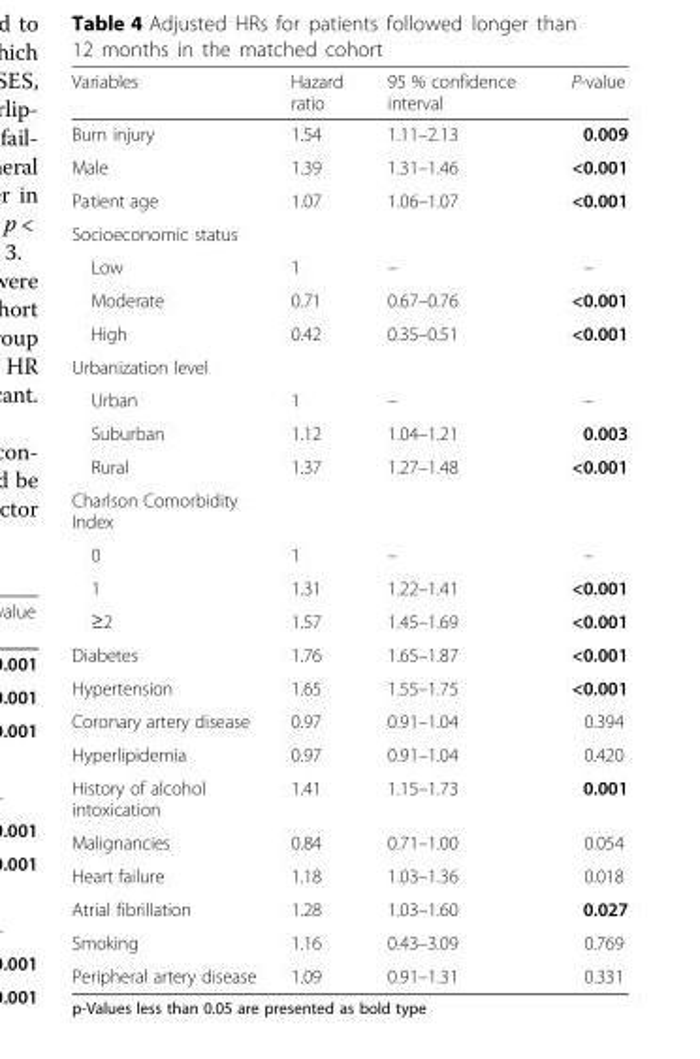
<table><thead><tr><td>Variables</td><td>Hazard ratio</td><td>95 % confidence interval</td><td>P-value</td></tr></thead><tbody><tr><td>Burn injury</td><td>1.54</td><td>1.11–2.13</td><td>0.009</td></tr><tr><td>Male</td><td>1.39</td><td>1.31–1.46</td><td>&lt;0.001</td></tr><tr><td>Patient age</td><td>1.07</td><td>1.06–1.07</td><td>&lt;0.001</td></tr><tr><td colspan="4">Socioeconomic status</td></tr><tr><td>Low</td><td>1</td><td>–</td><td>–</td></tr><tr><td>Moderate</td><td>0.71</td><td>0.67–0.76</td><td>&lt;0.001</td></tr><tr><td>High</td><td>0.42</td><td>0.35–0.51</td><td>&lt;0.001</td></tr><tr><td colspan="4">Urbanization level</td></tr><tr><td>Urban</td><td>1</td><td>–</td><td>–</td></tr><tr><td>Suburban</td><td>1.12</td><td>1.04–1.21</td><td>0.003</td></tr><tr><td>Rural</td><td>1.37</td><td>1.27–1.48</td><td>&lt;0.001</td></tr><tr><td colspan="4">Charlson Comorbidity Index</td></tr><tr><td>0</td><td>1</td><td>–</td><td>–</td></tr><tr><td>1</td><td>1.31</td><td>1.22–1.41</td><td>&lt;0.001</td></tr><tr><td>≥2</td><td>1.57</td><td>1.45–1.69</td><td>&lt;0.001</td></tr><tr><td>Diabetes</td><td>1.76</td><td>1.65–1.87</td><td>&lt;0.001</td></tr><tr><td>Hypertension</td><td>1.65</td><td>1.55–1.75</td><td>&lt;0.001</td></tr><tr><td>Coronary artery disease</td><td>0.97</td><td>0.91–1.04</td><td>0.394</td></tr><tr><td>Hyperlipidemia</td><td>0.97</td><td>0.91–1.04</td><td>0.420</td></tr><tr><td>History of alcohol intoxication</td><td>1.41</td><td>1.15–1.73</td><td>0.001</td></tr><tr><td>Malignancies</td><td>0.84</td><td>0.71–1.00</td><td>0.054</td></tr><tr><td>Heart failure</td><td>1.18</td><td>1.03–1.36</td><td>0.018</td></tr><tr><td>Atrial fibrillation</td><td>1.28</td><td>1.03–1.60</td><td>0.027</td></tr><tr><td>Smoking</td><td>1.16</td><td>0.43–3.09</td><td>0.769</td></tr><tr><td>Peripheral artery disease</td><td>1.09</td><td>0.91–1.31</td><td>0.331</td></tr></tbody></table>